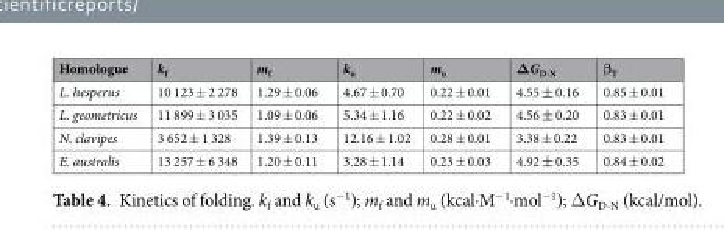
<table><thead><tr><td>Homologue</td><td>k<sub>f</sub></td><td>m<sub>f</sub></td><td>k<sub>u</sub></td><td>m<sub>u</sub></td><td>ΔG<sub>D-N</sub></td><td>β<sub>T</sub></td></tr></thead><tbody><tr><td>L. hesperus</td><td>10 123 ± 2 278</td><td>1.29 ± 0.06</td><td>4.67 ± 0.70</td><td>0.22 ± 0.01</td><td>4.55 ± 0.16</td><td>0.85 ± 0.01</td></tr><tr><td>L. geometricus</td><td>11 899 ± 3 035</td><td>1.09 ± 0.06</td><td>5.34 ± 1.16</td><td>0.22 ± 0.02</td><td>4.56 ± 0.20</td><td>0.83 ± 0.01</td></tr><tr><td>N. clavipes</td><td>3 652 ± 1 328</td><td>1.39 ± 0.13</td><td>12.16 ± 1.02</td><td>0.28 ± 0.01</td><td>3.38 ± 0.22</td><td>0.83 ± 0.01</td></tr><tr><td>E. australis</td><td>13 257 ± 6 348</td><td>1.20 ± 0.11</td><td>3.28 ± 1.14</td><td>0.23 ± 0.03</td><td>4.92 ± 0.35</td><td>0.84 ± 0.02</td></tr></tbody></table>